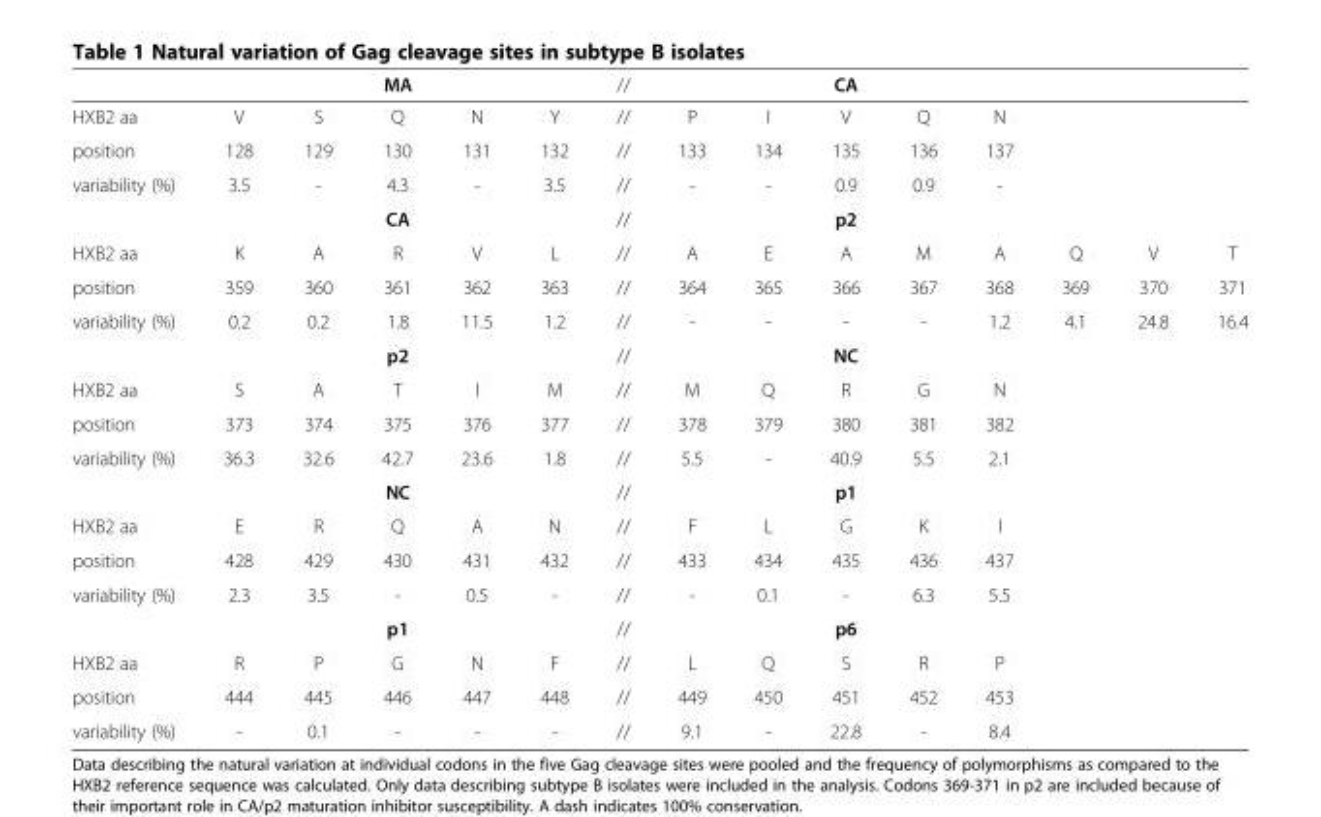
<table><thead><tr><td></td><td></td><td></td><td>MA</td><td></td><td></td><td>//</td><td></td><td></td><td>CA</td><td></td><td></td><td></td><td></td><td></td></tr></thead><tbody><tr><td>HXB2 aa</td><td>V</td><td>S</td><td>Q</td><td>N</td><td>Y</td><td>//</td><td>P</td><td>I</td><td>V</td><td>Q</td><td>N</td><td></td><td></td><td></td></tr><tr><td>position</td><td>128</td><td>129</td><td>130</td><td>131</td><td>132</td><td>//</td><td>133</td><td>134</td><td>135</td><td>136</td><td>137</td><td></td><td></td><td></td></tr><tr><td rowspan="2">variability (%)</td><td>3.5</td><td>-</td><td>4.3</td><td>-</td><td>3.5</td><td>//</td><td>-</td><td>-</td><td>0.9</td><td>0.9</td><td>-</td><td></td><td></td><td></td></tr><tr><td></td><td></td><td>CA</td><td></td><td></td><td>//</td><td></td><td></td><td>p2</td><td></td><td></td><td></td><td></td><td></td></tr><tr><td>HXB2 aa</td><td>K</td><td>A</td><td>R</td><td>V</td><td>L</td><td>//</td><td>A</td><td>E</td><td>A</td><td>M</td><td>A</td><td>Q</td><td>V</td><td>T</td></tr><tr><td>position</td><td>359</td><td>360</td><td>361</td><td>362</td><td>363</td><td>//</td><td>364</td><td>365</td><td>366</td><td>367</td><td>368</td><td>369</td><td>370</td><td>371</td></tr><tr><td rowspan="2">variability (%)</td><td>0.2</td><td>0.2</td><td>1.8</td><td>11.5</td><td>1.2</td><td>//</td><td>-</td><td>-</td><td>-</td><td>-</td><td>1.2</td><td>4.1</td><td>24.8</td><td>16.4</td></tr><tr><td></td><td></td><td>p2</td><td></td><td></td><td>//</td><td></td><td></td><td>NC</td><td></td><td></td><td></td><td></td><td></td></tr><tr><td>HXB2 aa</td><td>S</td><td>A</td><td>T</td><td>I</td><td>M</td><td>//</td><td>M</td><td>Q</td><td>R</td><td>G</td><td>N</td><td></td><td></td><td></td></tr><tr><td>position</td><td>373</td><td>374</td><td>375</td><td>376</td><td>377</td><td>//</td><td>378</td><td>379</td><td>380</td><td>381</td><td>382</td><td></td><td></td><td></td></tr><tr><td rowspan="2">variability (%)</td><td>36.3</td><td>32.6</td><td>42.7</td><td>23.6</td><td>1.8</td><td>//</td><td>5.5</td><td>-</td><td>40.9</td><td>5.5</td><td>2.1</td><td></td><td></td><td></td></tr><tr><td></td><td></td><td>NC</td><td></td><td></td><td>//</td><td></td><td></td><td>p1</td><td></td><td></td><td></td><td></td><td></td></tr><tr><td>HXB2 aa</td><td>E</td><td>R</td><td>Q</td><td>A</td><td>N</td><td>//</td><td>F</td><td>L</td><td>G</td><td>K</td><td>I</td><td></td><td></td><td></td></tr><tr><td>position</td><td>428</td><td>429</td><td>430</td><td>431</td><td>432</td><td>//</td><td>433</td><td>434</td><td>435</td><td>436</td><td>437</td><td></td><td></td><td></td></tr><tr><td rowspan="2">variability (%)</td><td>2.3</td><td>3.5</td><td>-</td><td>0.5</td><td>-</td><td>//</td><td>-</td><td>0.1</td><td>-</td><td>6.3</td><td>5.5</td><td></td><td></td><td></td></tr><tr><td></td><td></td><td>p1</td><td></td><td></td><td>//</td><td></td><td></td><td>p6</td><td></td><td></td><td></td><td></td><td></td></tr><tr><td>HXB2 aa</td><td>R</td><td>P</td><td>G</td><td>N</td><td>F</td><td>//</td><td>L</td><td>Q</td><td>S</td><td>R</td><td>P</td><td></td><td></td><td></td></tr><tr><td>position</td><td>444</td><td>445</td><td>446</td><td>447</td><td>448</td><td>//</td><td>449</td><td>450</td><td>451</td><td>452</td><td>453</td><td></td><td></td><td></td></tr><tr><td>variability (%)</td><td>-</td><td>0.1</td><td>-</td><td>-</td><td>-</td><td>//</td><td>9.1</td><td>-</td><td>22.8</td><td>-</td><td>8.4</td><td></td><td></td><td></td></tr></tbody></table>